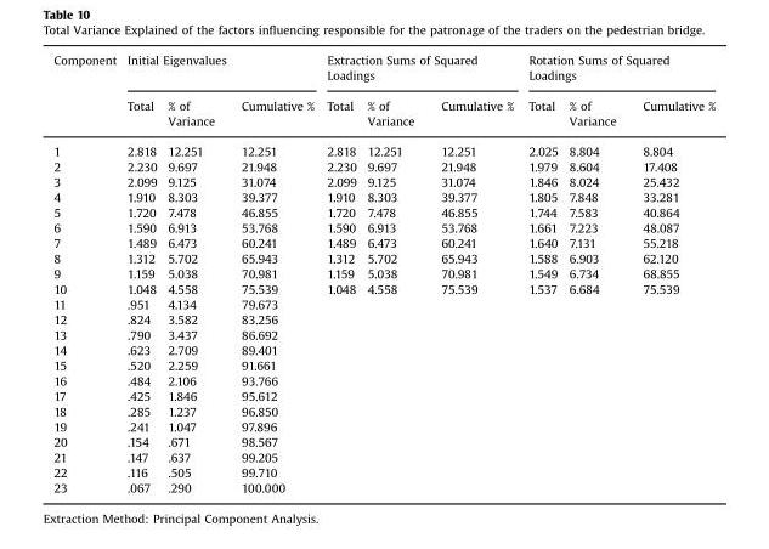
<table><thead><tr><td rowspan="2">Component</td><td colspan="3">Initial Eigenvalues</td><td colspan="3">Extraction Sums of Squared Loadings</td><td colspan="3">Rotation Sums of Squared Loadings</td></tr><tr><td>Total</td><td>% of Variance</td><td>Cumulative %</td><td>Total</td><td>% of Variance</td><td>Cumulative %</td><td>Total</td><td>% of Variance</td><td>Cumulative %</td></tr></thead><tbody><tr><td>1</td><td>2.818</td><td>12.251</td><td>12.251</td><td>2.818</td><td>12.251</td><td>12.251</td><td>2.025</td><td>8.804</td><td>8.804</td></tr><tr><td>2</td><td>2.230</td><td>9.697</td><td>21.948</td><td>2.230</td><td>9.697</td><td>21.948</td><td>1.979</td><td>8.604</td><td>17.408</td></tr><tr><td>3</td><td>2.099</td><td>9.125</td><td>31.074</td><td>2.099</td><td>9.125</td><td>31.074</td><td>1.846</td><td>8.024</td><td>25.432</td></tr><tr><td>4</td><td>1.910</td><td>8.303</td><td>39.377</td><td>1.910</td><td>8.303</td><td>39.377</td><td>1.805</td><td>7.848</td><td>33.281</td></tr><tr><td>5</td><td>1.720</td><td>7.478</td><td>46.855</td><td>1.720</td><td>7.478</td><td>46.855</td><td>1.744</td><td>7.583</td><td>40.864</td></tr><tr><td>6</td><td>1.590</td><td>6.913</td><td>53.768</td><td>1.590</td><td>6.913</td><td>53.768</td><td>1.661</td><td>7.223</td><td>48.087</td></tr><tr><td>7</td><td>1.489</td><td>6.473</td><td>60.241</td><td>1.489</td><td>6.473</td><td>60.241</td><td>1.640</td><td>7.131</td><td>55.218</td></tr><tr><td>8</td><td>1.312</td><td>5.702</td><td>65.943</td><td>1.312</td><td>5.702</td><td>65.943</td><td>1.588</td><td>6.903</td><td>62.120</td></tr><tr><td>9</td><td>1.159</td><td>5.038</td><td>70.981</td><td>1.159</td><td>5.038</td><td>70.981</td><td>1.549</td><td>6.734</td><td>68.855</td></tr><tr><td>10</td><td>1.048</td><td>4.558</td><td>75.539</td><td>1.048</td><td>4.558</td><td>75.539</td><td>1.537</td><td>6.684</td><td>75.539</td></tr><tr><td>11</td><td>.951</td><td>4.134</td><td>79.673</td><td></td><td></td><td></td><td></td><td></td><td></td></tr><tr><td>12</td><td>.824</td><td>3.582</td><td>83.256</td><td></td><td></td><td></td><td></td><td></td><td></td></tr><tr><td>13</td><td>.790</td><td>3.437</td><td>86.692</td><td></td><td></td><td></td><td></td><td></td><td></td></tr><tr><td>14</td><td>.623</td><td>2.709</td><td>89.401</td><td></td><td></td><td></td><td></td><td></td><td></td></tr><tr><td>15</td><td>.520</td><td>2.259</td><td>91.661</td><td></td><td></td><td></td><td></td><td></td><td></td></tr><tr><td>16</td><td>.484</td><td>2.106</td><td>93.766</td><td></td><td></td><td></td><td></td><td></td><td></td></tr><tr><td>17</td><td>.425</td><td>1.846</td><td>95.612</td><td></td><td></td><td></td><td></td><td></td><td></td></tr><tr><td>18</td><td>.285</td><td>1.237</td><td>96.850</td><td></td><td></td><td></td><td></td><td></td><td></td></tr><tr><td>19</td><td>.241</td><td>1.047</td><td>97.896</td><td></td><td></td><td></td><td></td><td></td><td></td></tr><tr><td>20</td><td>.154</td><td>.671</td><td>98.567</td><td></td><td></td><td></td><td></td><td></td><td></td></tr><tr><td>21</td><td>.147</td><td>.637</td><td>99.205</td><td></td><td></td><td></td><td></td><td></td><td></td></tr><tr><td>22</td><td>.116</td><td>.505</td><td>99.710</td><td></td><td></td><td></td><td></td><td></td><td></td></tr><tr><td>23</td><td>.067</td><td>.290</td><td>100.000</td><td></td><td></td><td></td><td></td><td></td><td></td></tr></tbody></table>